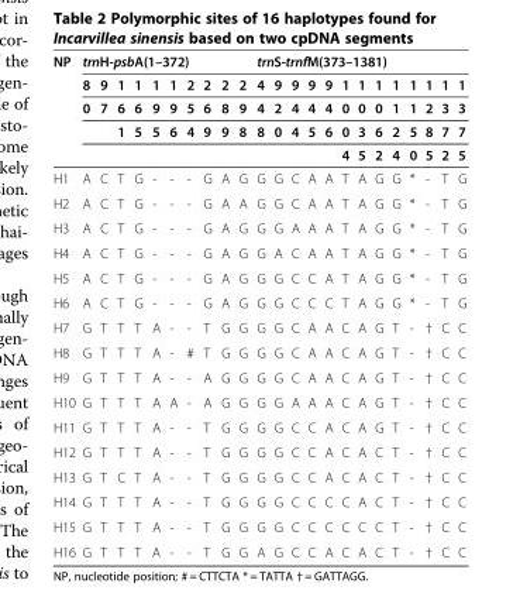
<table><thead><tr><td rowspan="5">NP</td><td colspan="10">trnH-psbA(1–372)</td><td colspan="13">trnS-trnfM(373–1381)</td></tr><tr><td rowspan="4">8 0</td><td rowspan="4">9 7</td><td rowspan="4">1 6 1</td><td rowspan="4">1 6 5</td><td rowspan="4">1 9 5</td><td rowspan="4">1 9 6</td><td rowspan="4">2 5 4</td><td rowspan="4">2 6 9</td><td rowspan="4">2 8 9</td><td rowspan="4">2 9 8</td><td rowspan="4">4 4 8</td><td rowspan="4">9 2 0</td><td rowspan="4">9 4 4</td><td rowspan="4">9 4 5</td><td rowspan="4">9 4 6</td><td rowspan="4">1 0 0 4</td><td rowspan="4">1 0 3 5</td><td rowspan="4">1 0 6 2</td><td rowspan="4">1 1 2 4</td><td rowspan="4">1 1 5 0</td><td rowspan="4">1 2 8 5</td><td rowspan="4">1 3 7 2</td><td rowspan="4">1 3 7 5</td></tr><tr></tr><tr></tr><tr></tr></thead><tbody><tr><td>H1</td><td>A</td><td>C</td><td>T</td><td>G</td><td>-</td><td>-</td><td>-</td><td>G</td><td>A</td><td>G</td><td>G</td><td>G</td><td>C</td><td>A</td><td>A</td><td>T</td><td>A</td><td>G</td><td>G</td><td>*</td><td>-</td><td>T</td><td>G</td></tr><tr><td>H2</td><td>A</td><td>C</td><td>T</td><td>G</td><td>-</td><td>-</td><td>-</td><td>G</td><td>A</td><td>A</td><td>G</td><td>G</td><td>C</td><td>A</td><td>A</td><td>T</td><td>A</td><td>G</td><td>G</td><td>*</td><td>-</td><td>T</td><td>G</td></tr><tr><td>H3</td><td>A</td><td>C</td><td>T</td><td>G</td><td>-</td><td>-</td><td>-</td><td>G</td><td>A</td><td>G</td><td>G</td><td>G</td><td>A</td><td>A</td><td>A</td><td>T</td><td>A</td><td>G</td><td>G</td><td>*</td><td>-</td><td>T</td><td>G</td></tr><tr><td>H4</td><td>A</td><td>C</td><td>T</td><td>G</td><td>-</td><td>-</td><td>-</td><td>G</td><td>A</td><td>G</td><td>G</td><td>A</td><td>C</td><td>A</td><td>A</td><td>T</td><td>A</td><td>G</td><td>G</td><td>*</td><td>-</td><td>T</td><td>G</td></tr><tr><td>H5</td><td>A</td><td>C</td><td>T</td><td>G</td><td>-</td><td>-</td><td>-</td><td>G</td><td>A</td><td>G</td><td>G</td><td>G</td><td>C</td><td>C</td><td>A</td><td>T</td><td>A</td><td>G</td><td>G</td><td>*</td><td>-</td><td>T</td><td>G</td></tr><tr><td>H6</td><td>A</td><td>C</td><td>T</td><td>G</td><td>-</td><td>-</td><td>-</td><td>G</td><td>A</td><td>G</td><td>G</td><td>G</td><td>C</td><td>C</td><td>C</td><td>T</td><td>A</td><td>G</td><td>G</td><td>*</td><td>-</td><td>T</td><td>G</td></tr><tr><td>H7</td><td>G</td><td>T</td><td>T</td><td>T</td><td>A</td><td>-</td><td>-</td><td>T</td><td>G</td><td>G</td><td>G</td><td>G</td><td>C</td><td>A</td><td>A</td><td>C</td><td>A</td><td>G</td><td>T</td><td>-</td><td>†</td><td>C</td><td>C</td></tr><tr><td>H8</td><td>G</td><td>T</td><td>T</td><td>T</td><td>A</td><td>-</td><td>#</td><td>T</td><td>G</td><td>G</td><td>G</td><td>G</td><td>C</td><td>A</td><td>A</td><td>C</td><td>A</td><td>G</td><td>T</td><td>-</td><td>†</td><td>C</td><td>C</td></tr><tr><td>H9</td><td>G</td><td>T</td><td>T</td><td>T</td><td>A</td><td>-</td><td>-</td><td>A</td><td>G</td><td>G</td><td>G</td><td>G</td><td>C</td><td>A</td><td>A</td><td>C</td><td>A</td><td>G</td><td>T</td><td>-</td><td>†</td><td>C</td><td>C</td></tr><tr><td>H10</td><td>G</td><td>T</td><td>T</td><td>T</td><td>A</td><td>A</td><td>-</td><td>A</td><td>G</td><td>G</td><td>G</td><td>G</td><td>A</td><td>A</td><td>A</td><td>C</td><td>A</td><td>G</td><td>T</td><td>-</td><td>†</td><td>C</td><td>C</td></tr><tr><td>H11</td><td>G</td><td>T</td><td>T</td><td>T</td><td>A</td><td>-</td><td>-</td><td>T</td><td>G</td><td>G</td><td>G</td><td>G</td><td>C</td><td>C</td><td>A</td><td>C</td><td>A</td><td>G</td><td>T</td><td>-</td><td>†</td><td>C</td><td>C</td></tr><tr><td>H12</td><td>G</td><td>T</td><td>T</td><td>T</td><td>A</td><td>-</td><td>-</td><td>T</td><td>G</td><td>G</td><td>G</td><td>G</td><td>C</td><td>C</td><td>A</td><td>C</td><td>A</td><td>C</td><td>T</td><td>-</td><td>†</td><td>C</td><td>C</td></tr><tr><td>H13</td><td>G</td><td>T</td><td>C</td><td>T</td><td>A</td><td>-</td><td>-</td><td>T</td><td>G</td><td>G</td><td>G</td><td>G</td><td>C</td><td>C</td><td>A</td><td>C</td><td>A</td><td>C</td><td>T</td><td>-</td><td>†</td><td>C</td><td>C</td></tr><tr><td>H14</td><td>G</td><td>T</td><td>T</td><td>T</td><td>A</td><td>-</td><td>-</td><td>T</td><td>G</td><td>G</td><td>G</td><td>G</td><td>C</td><td>C</td><td>C</td><td>C</td><td>A</td><td>C</td><td>T</td><td>-</td><td>†</td><td>C</td><td>C</td></tr><tr><td>H15</td><td>G</td><td>T</td><td>T</td><td>T</td><td>A</td><td>-</td><td>-</td><td>T</td><td>G</td><td>G</td><td>G</td><td>G</td><td>C</td><td>C</td><td>C</td><td>C</td><td>C</td><td>C</td><td>T</td><td>-</td><td>†</td><td>C</td><td>C</td></tr><tr><td>H16</td><td>G</td><td>T</td><td>T</td><td>T</td><td>A</td><td>-</td><td>-</td><td>T</td><td>G</td><td>G</td><td>A</td><td>G</td><td>C</td><td>C</td><td>A</td><td>C</td><td>A</td><td>C</td><td>T</td><td>-</td><td>†</td><td>C</td><td>C</td></tr></tbody></table>